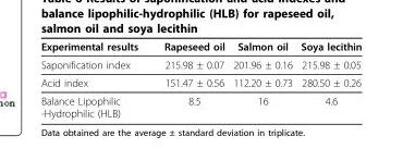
<table><thead><tr><td>Experimental results</td><td>Rapeseed oil</td><td>Salmon oil</td><td>Soya lecithin</td></tr></thead><tbody><tr><td>Saponification index</td><td>215.98 ± 0.07</td><td>201.96 ± 0.16</td><td>215.98 ± 0.05</td></tr><tr><td>Acid index</td><td>151.47 ± 0.56</td><td>112.20 ± 0.73</td><td>280.50 ± 0.26</td></tr><tr><td>Balance Lipophilic -Hydrophilic (HLB)</td><td>8.5</td><td>16</td><td>4.6</td></tr></tbody></table>